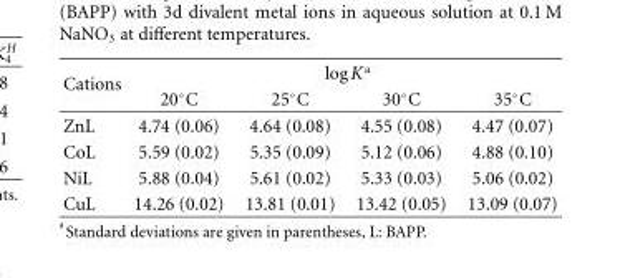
<table><thead><tr><td rowspan="2">Cations</td><td colspan="4">log K<sup>a</sup></td></tr><tr><td>20◦C</td><td>25◦C</td><td>30◦C</td><td>35◦C</td></tr></thead><tbody><tr><td>ZnL</td><td>4.74 (0.06)</td><td>4.64 (0.08)</td><td>4.55 (0.08)</td><td>4.47 (0.07)</td></tr><tr><td>CoL</td><td>5.59 (0.02)</td><td>5.35 (0.09)</td><td>5.12 (0.06)</td><td>4.88 (0.10)</td></tr><tr><td>NiL</td><td>5.88 (0.04)</td><td>5.61 (0.02)</td><td>5.33 (0.03)</td><td>5.06 (0.02)</td></tr><tr><td>CuL</td><td>14.26 (0.02)</td><td>13.81 (0.01)</td><td>13.42 (0.05)</td><td>13.09 (0.07)</td></tr></tbody></table>